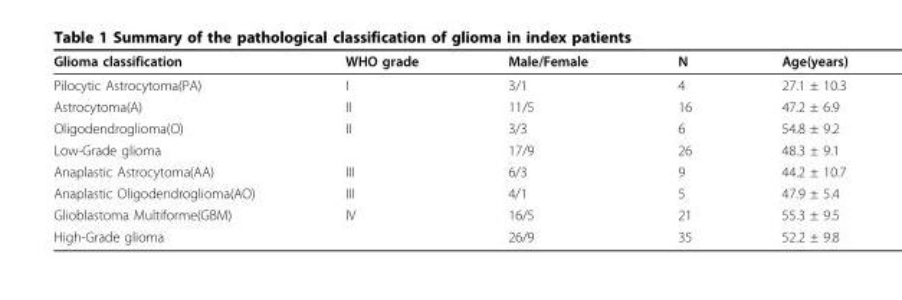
<table><thead><tr><td>Glioma classification</td><td>WHO grade</td><td>Male/Female</td><td>N</td><td>Age(years)</td></tr></thead><tbody><tr><td>Pilocytic Astrocytoma(PA)</td><td>I</td><td>3/1</td><td>4</td><td>27.1 ± 10.3</td></tr><tr><td>Astrocytoma(A)</td><td>II</td><td>11/5</td><td>16</td><td>47.2 ± 6.9</td></tr><tr><td>Oligodendroglioma(O)</td><td>II</td><td>3/3</td><td>6</td><td>54.8 ± 9.2</td></tr><tr><td>Low-Grade glioma</td><td></td><td>17/9</td><td>26</td><td>48.3 ± 9.1</td></tr><tr><td>Anaplastic Astrocytoma(AA)</td><td>III</td><td>6/3</td><td>9</td><td>44.2 ± 10.7</td></tr><tr><td>Anaplastic Oligodendroglioma(AO)</td><td>III</td><td>4/1</td><td>5</td><td>47.9 ± 5.4</td></tr><tr><td>Glioblastoma Multiforme(GBM)</td><td>IV</td><td>16/5</td><td>21</td><td>55.3 ± 9.5</td></tr><tr><td>High-Grade glioma</td><td></td><td>26/9</td><td>35</td><td>52.2 ± 9.8</td></tr></tbody></table>